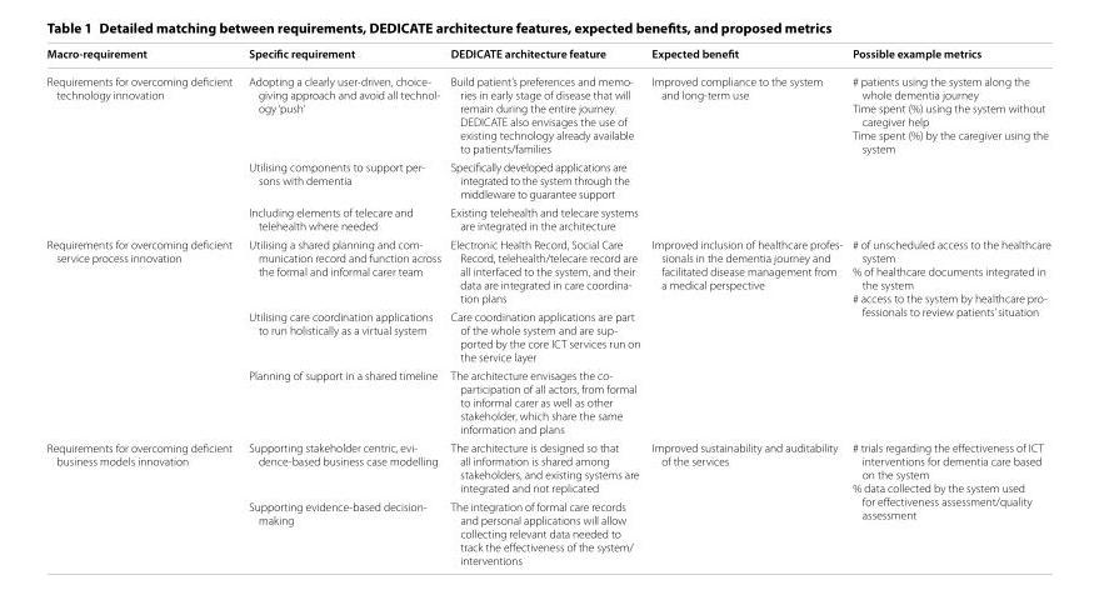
<table><thead><tr><td>Macro‑requirement</td><td>Specific requirement</td><td>DEDICATE architecture feature</td><td>Expected benefit</td><td>Possible example metrics</td></tr></thead><tbody><tr><td rowspan="3">Requirements for overcoming deficient technology innovation</td><td>Adopting a clearly user-driven, choice- giving approach and avoid all technol- ogy ‘push’</td><td>Build patient’s preferences and memo- ries in early stage of disease that will remain during the entire journey. DEDICATE also envisages the use of existing technology already available to patients/families</td><td rowspan="3">Improved compliance to the system and long-term use</td><td rowspan="3"># patients using the system along the whole dementia journey Time spent (%) using the system without caregiver help Time spent (%) by the caregiver using the system</td></tr><tr><td>Utilising components to support per- sons with dementia</td><td>Specifically developed applications are integrated to the system through the middleware to guarantee support</td></tr><tr><td>Including elements of telecare and telehealth where needed</td><td>Existing telehealth and telecare systems are integrated in the architecture</td></tr><tr><td rowspan="3">Requirements for overcoming deficient service process innovation</td><td>Utilising a shared planning and com- munication record and function across the formal and informal carer team</td><td>Electronic Health Record, Social Care Record, telehealth/telecare record are all interfaced to the system, and their data are integrated in care coordina- tion plans</td><td rowspan="3">Improved inclusion of healthcare profes- sionals in the dementia journey and facilitated disease management from a medical perspective</td><td rowspan="3"># of unscheduled access to the healthcare system % of healthcare documents integrated in the system # access to the system by healthcare pro- fessionals to review patients’ situation</td></tr><tr><td>Utilising care coordination applications to run holistically as a virtual system</td><td>Care coordination applications are part of the whole system and are sup- ported by the core ICT services run on the service layer</td></tr><tr><td>Planning of support in a shared timeline</td><td>The architecture envisages the co- participation of all actors, from formal to informal carer as well as other stakeholder, which share the same information and plans</td></tr><tr><td rowspan="2">Requirements for overcoming deficient business models innovation</td><td>Supporting stakeholder centric, evi- dence-based business case modelling</td><td>The architecture is designed so that all information is shared among stakeholders, and existing systems are integrated and not replicated</td><td rowspan="2">Improved sustainability and auditability of the services</td><td rowspan="2"># trials regarding the effectiveness of ICT interventions for dementia care based on the system % data collected by the system used for effectiveness assessment/quality assessment</td></tr><tr><td>Supporting evidence-based decision- making</td><td>The integration of formal care records and personal applications will allow collecting relevant data needed to track the effectiveness of the system/ interventions</td></tr></tbody></table>